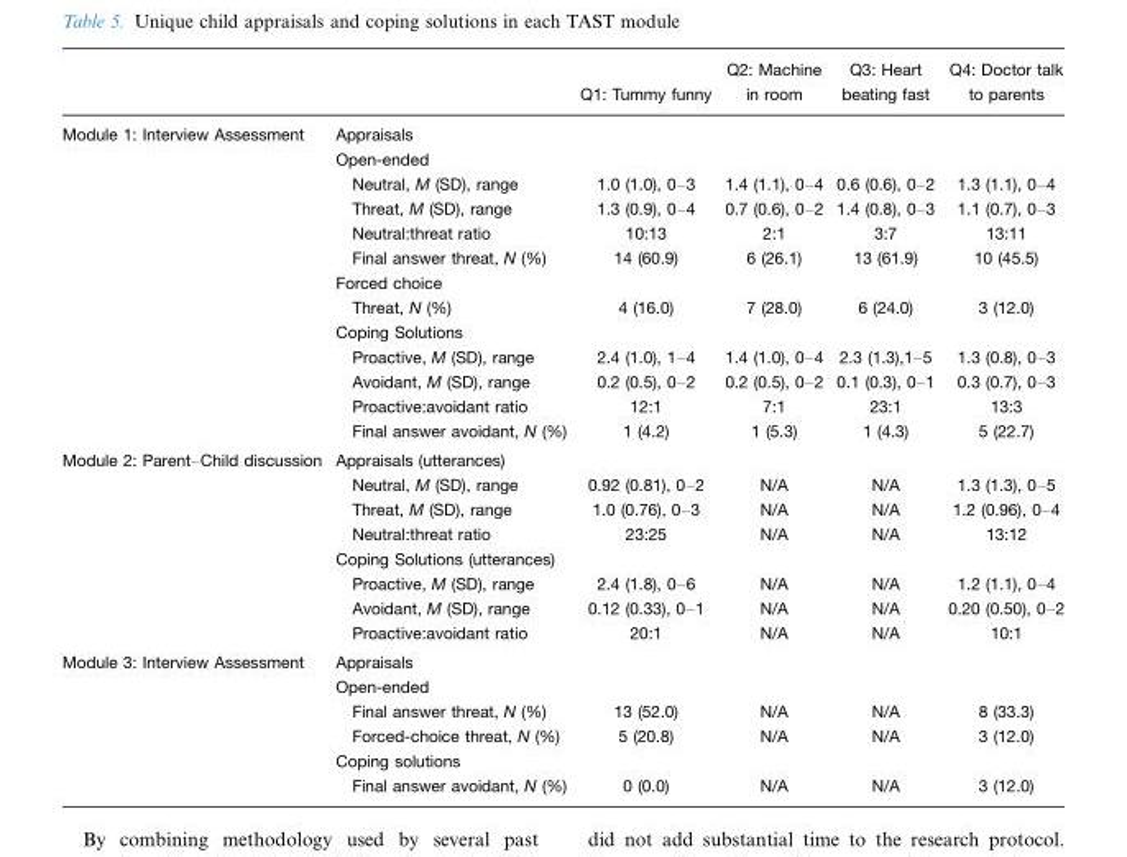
<table><thead><tr><td></td><td></td><td>Q1: Tummy funny</td><td>Q2: Machine in room</td><td>Q3: Heart beating fast</td><td>Q4: Doctor talk to parents</td></tr></thead><tbody><tr><td rowspan="13">Module 1: Interview Assessment</td><td>Appraisals</td><td></td><td></td><td></td><td></td></tr><tr><td>Open-ended</td><td></td><td></td><td></td><td></td></tr><tr><td>Neutral, M (SD), range</td><td>1.0 (1.0), 0–3</td><td>1.4 (1.1), 0–4</td><td>0.6 (0.6), 0–2</td><td>1.3 (1.1), 0–4</td></tr><tr><td>Threat, M (SD), range</td><td>1.3 (0.9), 0–4</td><td>0.7 (0.6), 0–2</td><td>1.4 (0.8), 0–3</td><td>1.1 (0.7), 0–3</td></tr><tr><td>Neutral:threat ratio</td><td>10:13</td><td>2:1</td><td>3:7</td><td>13:11</td></tr><tr><td>Final answer threat, N (%)</td><td>14 (60.9)</td><td>6 (26.1)</td><td>13 (61.9)</td><td>10 (45.5)</td></tr><tr><td>Forced choice</td><td></td><td></td><td></td><td></td></tr><tr><td>Threat, N (%)</td><td>4 (16.0)</td><td>7 (28.0)</td><td>6 (24.0)</td><td>3 (12.0)</td></tr><tr><td>Coping Solutions</td><td></td><td></td><td></td><td></td></tr><tr><td>Proactive, M (SD), range</td><td>2.4 (1.0), 1–4</td><td>1.4 (1.0), 0–4</td><td>2.3 (1.3),1–5</td><td>1.3 (0.8), 0–3</td></tr><tr><td>Avoidant, M (SD), range</td><td>0.2 (0.5), 0–2</td><td>0.2 (0.5), 0–2</td><td>0.1 (0.3), 0–1</td><td>0.3 (0.7), 0–3</td></tr><tr><td>Proactive:avoidant ratio</td><td>12:1</td><td>7:1</td><td>23:1</td><td>13:3</td></tr><tr><td>Final answer avoidant, N (%)</td><td>1 (4.2)</td><td>1 (5.3)</td><td>1 (4.3)</td><td>5 (22.7)</td></tr><tr><td rowspan="8">Module 2: Parent–Child discussion</td><td>Appraisals (utterances)</td><td></td><td></td><td></td><td></td></tr><tr><td>Neutral, M (SD), range</td><td>0.92 (0.81), 0–2</td><td>N/A</td><td>N/A</td><td>1.3 (1.3), 0–5</td></tr><tr><td>Threat, M (SD), range</td><td>1.0 (0.76), 0–3</td><td>N/A</td><td>N/A</td><td>1.2 (0.96), 0–4</td></tr><tr><td>Neutral:threat ratio</td><td>23:25</td><td>N/A</td><td>N/A</td><td>13:12</td></tr><tr><td>Coping Solutions (utterances)</td><td></td><td></td><td></td><td></td></tr><tr><td>Proactive, M (SD), range</td><td>2.4 (1.8), 0–6</td><td>N/A</td><td>N/A</td><td>1.2 (1.1), 0–4</td></tr><tr><td>Avoidant, M (SD), range</td><td>0.12 (0.33), 0–1</td><td>N/A</td><td>N/A</td><td>0.20 (0.50), 0–2</td></tr><tr><td>Proactive:avoidant ratio</td><td>20:1</td><td>N/A</td><td>N/A</td><td>10:1</td></tr><tr><td rowspan="6">Module 3: Interview Assessment</td><td>Appraisals</td><td></td><td></td><td></td><td></td></tr><tr><td>Open-ended</td><td></td><td></td><td></td><td></td></tr><tr><td>Final answer threat, N (%)</td><td>13 (52.0)</td><td>N/A</td><td>N/A</td><td>8 (33.3)</td></tr><tr><td>Forced-choice threat, N (%)</td><td>5 (20.8)</td><td>N/A</td><td>N/A</td><td>3 (12.0)</td></tr><tr><td>Coping solutions</td><td></td><td></td><td></td><td></td></tr><tr><td>Final answer avoidant, N (%)</td><td>0 (0.0)</td><td>N/A</td><td>N/A</td><td>3 (12.0)</td></tr></tbody></table>